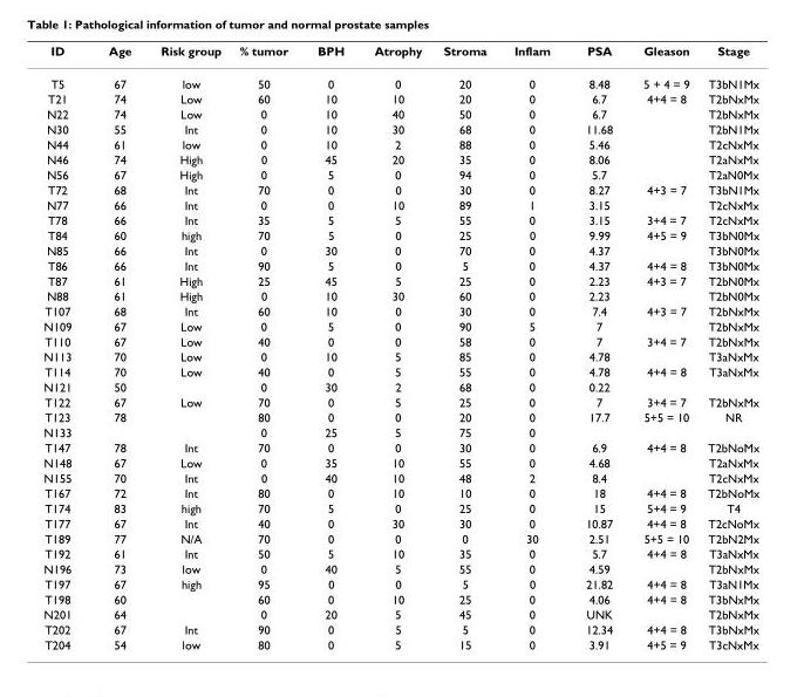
<table><thead><tr><td>ID</td><td>Age</td><td>Risk group</td><td>% tumor</td><td>BPH</td><td>Atrophy</td><td>Stroma</td><td>Inflam</td><td>PSA</td><td>Gleason</td><td>Stage</td></tr></thead><tbody><tr><td>T5</td><td>67</td><td>low</td><td>50</td><td>0</td><td>0</td><td>20</td><td>0</td><td>8.48</td><td>5 + 4 = 9</td><td>T3bN1Mx</td></tr><tr><td>T21</td><td>74</td><td>Low</td><td>60</td><td>10</td><td>10</td><td>20</td><td>0</td><td>6.7</td><td>4+4 = 8</td><td>T2bNxMx</td></tr><tr><td>N22</td><td>74</td><td>Low</td><td>0</td><td>10</td><td>40</td><td>50</td><td>0</td><td>6.7</td><td></td><td>T2bNxMx</td></tr><tr><td>N30</td><td>55</td><td>Int</td><td>0</td><td>10</td><td>30</td><td>68</td><td>0</td><td>11.68</td><td></td><td>T2bN1Mx</td></tr><tr><td>N44</td><td>61</td><td>low</td><td>0</td><td>10</td><td>2</td><td>88</td><td>0</td><td>5.46</td><td></td><td>T2cNxMx</td></tr><tr><td>N46</td><td>74</td><td>High</td><td>0</td><td>45</td><td>20</td><td>35</td><td>0</td><td>8.06</td><td></td><td>T2aNxMx</td></tr><tr><td>N56</td><td>67</td><td>High</td><td>0</td><td>5</td><td>0</td><td>94</td><td>0</td><td>5.7</td><td></td><td>T2aN0Mx</td></tr><tr><td>T72</td><td>68</td><td>Int</td><td>70</td><td>0</td><td>0</td><td>30</td><td>0</td><td>8.27</td><td>4+3 = 7</td><td>T3bN1Mx</td></tr><tr><td>N77</td><td>66</td><td>Int</td><td>0</td><td>0</td><td>10</td><td>89</td><td>1</td><td>3.15</td><td></td><td>T2cNxMx</td></tr><tr><td>T78</td><td>66</td><td>Int</td><td>35</td><td>5</td><td>5</td><td>55</td><td>0</td><td>3.15</td><td>3+4 = 7</td><td>T2cNxMx</td></tr><tr><td>T84</td><td>60</td><td>high</td><td>70</td><td>5</td><td>0</td><td>25</td><td>0</td><td>9.99</td><td>4+5 = 9</td><td>T3bN0Mx</td></tr><tr><td>N85</td><td>66</td><td>Int</td><td>0</td><td>30</td><td>0</td><td>70</td><td>0</td><td>4.37</td><td></td><td>T3bN0Mx</td></tr><tr><td>T86</td><td>66</td><td>Int</td><td>90</td><td>5</td><td>0</td><td>5</td><td>0</td><td>4.37</td><td>4+4 = 8</td><td>T3bN0Mx</td></tr><tr><td>T87</td><td>61</td><td>High</td><td>25</td><td>45</td><td>5</td><td>25</td><td>0</td><td>2.23</td><td>4+3 = 7</td><td>T2bN0Mx</td></tr><tr><td>N88</td><td>61</td><td>High</td><td>0</td><td>10</td><td>30</td><td>60</td><td>0</td><td>2.23</td><td></td><td>T2bN0Mx</td></tr><tr><td>T107</td><td>68</td><td>Int</td><td>60</td><td>10</td><td>0</td><td>30</td><td>0</td><td>7.4</td><td>4+3 = 7</td><td>T2bNxMx</td></tr><tr><td>N109</td><td>67</td><td>Low</td><td>0</td><td>5</td><td>0</td><td>90</td><td>5</td><td>7</td><td></td><td>T2bNxMx</td></tr><tr><td>T110</td><td>67</td><td>Low</td><td>40</td><td>0</td><td>0</td><td>58</td><td>0</td><td>7</td><td>3+4 = 7</td><td>T2bNxMx</td></tr><tr><td>N113</td><td>70</td><td>Low</td><td>0</td><td>10</td><td>5</td><td>85</td><td>0</td><td>4.78</td><td></td><td>T3aNxMx</td></tr><tr><td>T114</td><td>70</td><td>Low</td><td>40</td><td>0</td><td>5</td><td>55</td><td>0</td><td>4.78</td><td>4+4 = 8</td><td>T3aNxMx</td></tr><tr><td>N121</td><td>50</td><td></td><td>0</td><td>30</td><td>2</td><td>68</td><td>0</td><td>0.22</td><td></td><td></td></tr><tr><td>T122</td><td>67</td><td>Low</td><td>70</td><td>0</td><td>5</td><td>25</td><td>0</td><td>7</td><td>3+4 = 7</td><td>T2bNxMx</td></tr><tr><td>T123</td><td>78</td><td></td><td>80</td><td>0</td><td>0</td><td>20</td><td>0</td><td>17.7</td><td>5+5 = 10</td><td>NR</td></tr><tr><td>N133</td><td></td><td></td><td>0</td><td>25</td><td>5</td><td>75</td><td>0</td><td></td><td></td><td></td></tr><tr><td>T147</td><td>78</td><td>Int</td><td>70</td><td>0</td><td>0</td><td>30</td><td>0</td><td>6.9</td><td>4+4 = 8</td><td>T2bNoMx</td></tr><tr><td>N148</td><td>67</td><td>Low</td><td>0</td><td>35</td><td>10</td><td>55</td><td>0</td><td>4.68</td><td></td><td>T2aNxMx</td></tr><tr><td>N155</td><td>70</td><td>Int</td><td>0</td><td>40</td><td>10</td><td>48</td><td>2</td><td>8.4</td><td></td><td>T2cNxMx</td></tr><tr><td>T167</td><td>72</td><td>Int</td><td>80</td><td>0</td><td>10</td><td>10</td><td>0</td><td>18</td><td>4+4 = 8</td><td>T2bNoMx</td></tr><tr><td>T174</td><td>83</td><td>high</td><td>70</td><td>5</td><td>0</td><td>25</td><td>0</td><td>15</td><td>5+4 = 9</td><td>T4</td></tr><tr><td>T177</td><td>67</td><td>Int</td><td>40</td><td>0</td><td>30</td><td>30</td><td>0</td><td>10.87</td><td>4+4 = 8</td><td>T2cNoMx</td></tr><tr><td>T189</td><td>77</td><td>N/A</td><td>70</td><td>0</td><td>0</td><td>0</td><td>30</td><td>2.51</td><td>5+5 = 10</td><td>T2bN2Mx</td></tr><tr><td>T192</td><td>61</td><td>Int</td><td>50</td><td>5</td><td>10</td><td>35</td><td>0</td><td>5.7</td><td>4+4 = 8</td><td>T3aNxMx</td></tr><tr><td>N196</td><td>73</td><td>low</td><td>0</td><td>40</td><td>5</td><td>55</td><td>0</td><td>4.59</td><td></td><td>T2bNxMx</td></tr><tr><td>T197</td><td>67</td><td>high</td><td>95</td><td>0</td><td>0</td><td>5</td><td>0</td><td>21.82</td><td>4+4 = 8</td><td>T3aN1Mx</td></tr><tr><td>T198</td><td>60</td><td></td><td>60</td><td>0</td><td>10</td><td>25</td><td>0</td><td>4.06</td><td>4+4 = 8</td><td>T3bNxMx</td></tr><tr><td>N201</td><td>64</td><td></td><td>0</td><td>20</td><td>5</td><td>45</td><td>0</td><td>UNK</td><td></td><td>T2bNxMx</td></tr><tr><td>T202</td><td>67</td><td>Int</td><td>90</td><td>0</td><td>5</td><td>5</td><td>0</td><td>12.34</td><td>4+4 = 8</td><td>T3bNxMx</td></tr><tr><td>T204</td><td>54</td><td>low</td><td>80</td><td>0</td><td>5</td><td>15</td><td>0</td><td>3.91</td><td>4+5 = 9</td><td>T3cNxMx</td></tr></tbody></table>